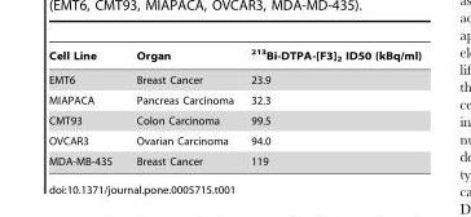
<table><thead><tr><td>Cell Line</td><td>Organ</td><td><sup>213</sup>Bi-DTPA-[F3]<sub>2</sub> ID50 (kBq/ml)</td></tr></thead><tbody><tr><td>EMT6</td><td>Breast Cancer</td><td>23.9</td></tr><tr><td>MIAPACA</td><td>Pancreas Carcinoma</td><td>32.3</td></tr><tr><td>CMT93</td><td>Colon Carcinoma</td><td>99.5</td></tr><tr><td>OVCAR3</td><td>Ovarian Carcinoma</td><td>94.0</td></tr><tr><td>MDA-MB-435</td><td>Breast Cancer</td><td>119</td></tr></tbody></table>